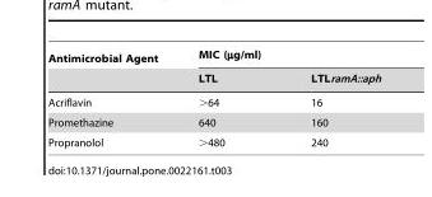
<table><thead><tr><td rowspan="2">Antimicrobial Agent</td><td colspan="2">MIC (µg/ml)</td></tr><tr><td>LTL</td><td>LTLramA::aph</td></tr></thead><tbody><tr><td>Acriflavin</td><td>&gt;64</td><td>16</td></tr><tr><td>Promethazine</td><td>640</td><td>160</td></tr><tr><td>Propranolol</td><td>&gt;480</td><td>240</td></tr></tbody></table>